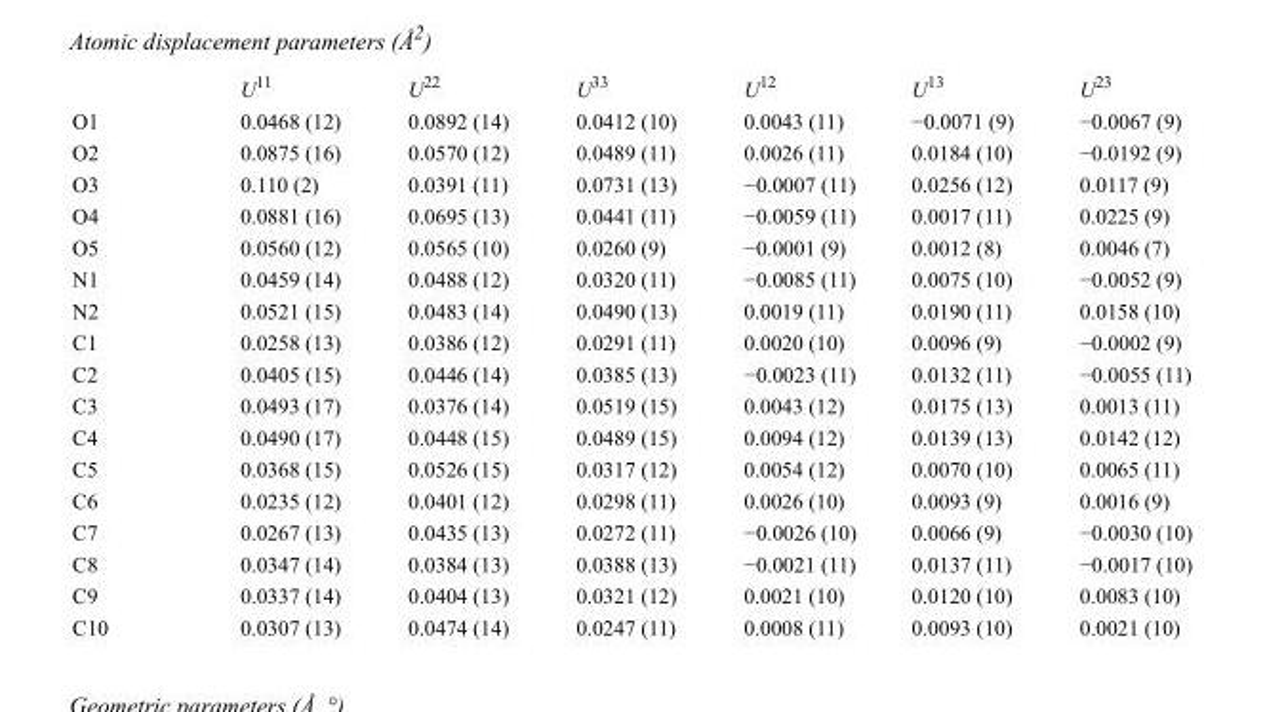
<table><thead><tr><td></td><td>U<sup>11</sup></td><td>U<sup>22</sup></td><td>U<sup>33</sup></td><td>U<sup>12</sup></td><td>U<sup>13</sup></td><td>U<sup>23</sup></td></tr></thead><tbody><tr><td>O1</td><td>0.0468 (12)</td><td>0.0892 (14)</td><td>0.0412 (10)</td><td>0.0043 (11)</td><td>−0.0071 (9)</td><td>−0.0067 (9)</td></tr><tr><td>O2</td><td>0.0875 (16)</td><td>0.0570 (12)</td><td>0.0489 (11)</td><td>0.0026 (11)</td><td>0.0184 (10)</td><td>−0.0192 (9)</td></tr><tr><td>O3</td><td>0.110 (2)</td><td>0.0391 (11)</td><td>0.0731 (13)</td><td>−0.0007 (11)</td><td>0.0256 (12)</td><td>0.0117 (9)</td></tr><tr><td>O4</td><td>0.0881 (16)</td><td>0.0695 (13)</td><td>0.0441 (11)</td><td>−0.0059 (11)</td><td>0.0017 (11)</td><td>0.0225 (9)</td></tr><tr><td>O5</td><td>0.0560 (12)</td><td>0.0565 (10)</td><td>0.0260 (9)</td><td>−0.0001 (9)</td><td>0.0012 (8)</td><td>0.0046 (7)</td></tr><tr><td>N1</td><td>0.0459 (14)</td><td>0.0488 (12)</td><td>0.0320 (11)</td><td>−0.0085 (11)</td><td>0.0075 (10)</td><td>−0.0052 (9)</td></tr><tr><td>N2</td><td>0.0521 (15)</td><td>0.0483 (14)</td><td>0.0490 (13)</td><td>0.0019 (11)</td><td>0.0190 (11)</td><td>0.0158 (10)</td></tr><tr><td>C1</td><td>0.0258 (13)</td><td>0.0386 (12)</td><td>0.0291 (11)</td><td>0.0020 (10)</td><td>0.0096 (9)</td><td>−0.0002 (9)</td></tr><tr><td>C2</td><td>0.0405 (15)</td><td>0.0446 (14)</td><td>0.0385 (13)</td><td>−0.0023 (11)</td><td>0.0132 (11)</td><td>−0.0055 (11)</td></tr><tr><td>C3</td><td>0.0493 (17)</td><td>0.0376 (14)</td><td>0.0519 (15)</td><td>0.0043 (12)</td><td>0.0175 (13)</td><td>0.0013 (11)</td></tr><tr><td>C4</td><td>0.0490 (17)</td><td>0.0448 (15)</td><td>0.0489 (15)</td><td>0.0094 (12)</td><td>0.0139 (13)</td><td>0.0142 (12)</td></tr><tr><td>C5</td><td>0.0368 (15)</td><td>0.0526 (15)</td><td>0.0317 (12)</td><td>0.0054 (12)</td><td>0.0070 (10)</td><td>0.0065 (11)</td></tr><tr><td>C6</td><td>0.0235 (12)</td><td>0.0401 (12)</td><td>0.0298 (11)</td><td>0.0026 (10)</td><td>0.0093 (9)</td><td>0.0016 (9)</td></tr><tr><td>C7</td><td>0.0267 (13)</td><td>0.0435 (13)</td><td>0.0272 (11)</td><td>−0.0026 (10)</td><td>0.0066 (9)</td><td>−0.0030 (10)</td></tr><tr><td>C8</td><td>0.0347 (14)</td><td>0.0384 (13)</td><td>0.0388 (13)</td><td>−0.0021 (11)</td><td>0.0137 (11)</td><td>−0.0017 (10)</td></tr><tr><td>C9</td><td>0.0337 (14)</td><td>0.0404 (13)</td><td>0.0321 (12)</td><td>0.0021 (10)</td><td>0.0120 (10)</td><td>0.0083 (10)</td></tr><tr><td>C10</td><td>0.0307 (13)</td><td>0.0474 (14)</td><td>0.0247 (11)</td><td>0.0008 (11)</td><td>0.0093 (10)</td><td>0.0021 (10)</td></tr></tbody></table>